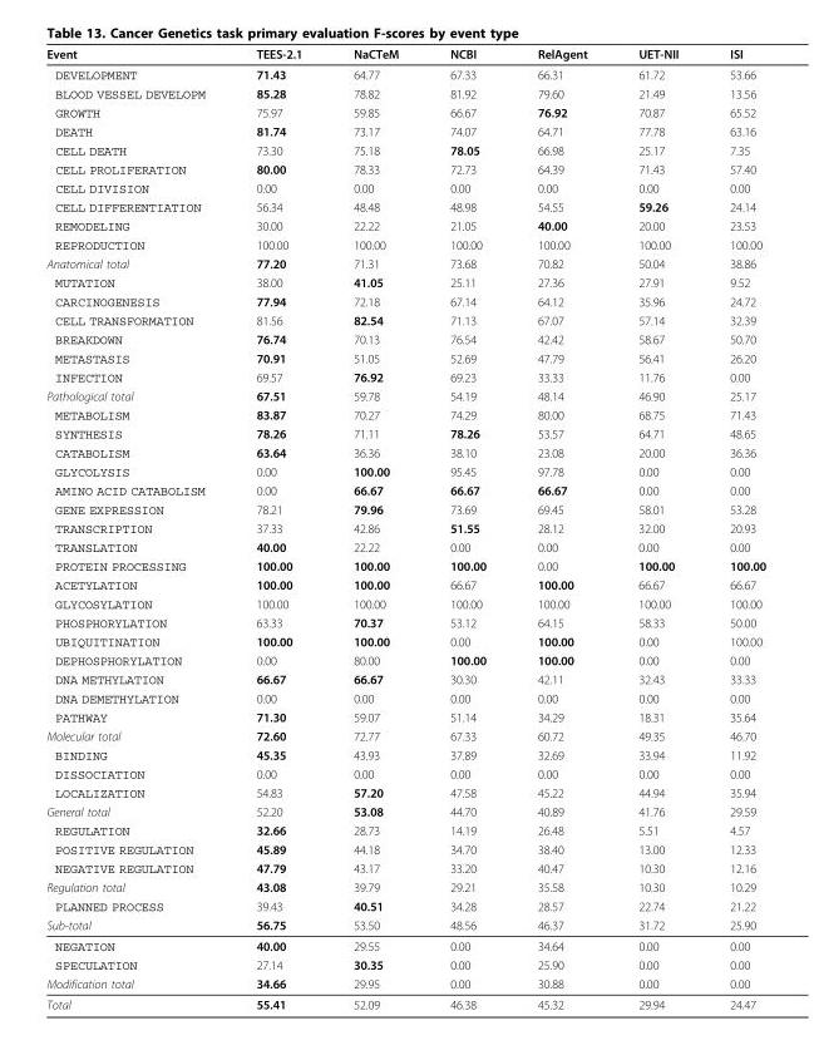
<table><thead><tr><td>Event</td><td>TEES-2.1</td><td>NaCTeM</td><td>NCBI</td><td>RelAgent</td><td>UET-NII</td><td>ISI</td></tr></thead><tbody><tr><td>DEVELOPMENT</td><td>71.43</td><td>64.77</td><td>67.33</td><td>66.31</td><td>61.72</td><td>53.66</td></tr><tr><td>BLOOD VESSEL DEVELOPM</td><td>85.28</td><td>78.82</td><td>81.92</td><td>79.60</td><td>21.49</td><td>13.56</td></tr><tr><td>GROWTH</td><td>75.97</td><td>59.85</td><td>66.67</td><td>76.92</td><td>70.87</td><td>65.52</td></tr><tr><td>DEATH</td><td>81.74</td><td>73.17</td><td>74.07</td><td>64.71</td><td>77.78</td><td>63.16</td></tr><tr><td>CELL DEATH</td><td>73.30</td><td>75.18</td><td>78.05</td><td>66.98</td><td>25.17</td><td>7.35</td></tr><tr><td>CELL PROLIFERATION</td><td>80.00</td><td>78.33</td><td>72.73</td><td>64.39</td><td>71.43</td><td>57.40</td></tr><tr><td>CELL DIVISION</td><td>0.00</td><td>0.00</td><td>0.00</td><td>0.00</td><td>0.00</td><td>0.00</td></tr><tr><td>CELL DIFFERENTIATION</td><td>56.34</td><td>48.48</td><td>48.98</td><td>54.55</td><td>59.26</td><td>24.14</td></tr><tr><td>REMODELING</td><td>30.00</td><td>22.22</td><td>21.05</td><td>40.00</td><td>20.00</td><td>23.53</td></tr><tr><td>REPRODUCTION</td><td>100.00</td><td>100.00</td><td>100.00</td><td>100.00</td><td>100.00</td><td>100.00</td></tr><tr><td>Anatomical total</td><td>77.20</td><td>71.31</td><td>73.68</td><td>70.82</td><td>50.04</td><td>38.86</td></tr><tr><td>MUTATION</td><td>38.00</td><td>41.05</td><td>25.11</td><td>27.36</td><td>27.91</td><td>9.52</td></tr><tr><td>CARCINOGENESIS</td><td>77.94</td><td>72.18</td><td>67.14</td><td>64.12</td><td>35.96</td><td>24.72</td></tr><tr><td>CELL TRANSFORMATION</td><td>81.56</td><td>82.54</td><td>71.13</td><td>67.07</td><td>57.14</td><td>32.39</td></tr><tr><td>BREAKDOWN</td><td>76.74</td><td>70.13</td><td>76.54</td><td>42.42</td><td>58.67</td><td>50.70</td></tr><tr><td>METASTASIS</td><td>70.91</td><td>51.05</td><td>52.69</td><td>47.79</td><td>56.41</td><td>26.20</td></tr><tr><td>INFECTION</td><td>69.57</td><td>76.92</td><td>69.23</td><td>33.33</td><td>11.76</td><td>0.00</td></tr><tr><td>Pathological total</td><td>67.51</td><td>59.78</td><td>54.19</td><td>48.14</td><td>46.90</td><td>25.17</td></tr><tr><td>METABOLISM</td><td>83.87</td><td>70.27</td><td>74.29</td><td>80.00</td><td>68.75</td><td>71.43</td></tr><tr><td>SYNTHESIS</td><td>78.26</td><td>71.11</td><td>78.26</td><td>53.57</td><td>64.71</td><td>48.65</td></tr><tr><td>CATABOLISM</td><td>63.64</td><td>36.36</td><td>38.10</td><td>23.08</td><td>20.00</td><td>36.36</td></tr><tr><td>GLYCOLYSIS</td><td>0.00</td><td>100.00</td><td>95.45</td><td>97.78</td><td>0.00</td><td>0.00</td></tr><tr><td>AMINO ACID CATABOLISM</td><td>0.00</td><td>66.67</td><td>66.67</td><td>66.67</td><td>0.00</td><td>0.00</td></tr><tr><td>GENE EXPRESSION</td><td>78.21</td><td>79.96</td><td>73.69</td><td>69.45</td><td>58.01</td><td>53.28</td></tr><tr><td>TRANSCRIPTION</td><td>37.33</td><td>42.86</td><td>51.55</td><td>28.12</td><td>32.00</td><td>20.93</td></tr><tr><td>TRANSLATION</td><td>40.00</td><td>22.22</td><td>0.00</td><td>0.00</td><td>0.00</td><td>0.00</td></tr><tr><td>PROTEIN PROCESSING</td><td>100.00</td><td>100.00</td><td>100.00</td><td>0.00</td><td>100.00</td><td>100.00</td></tr><tr><td>ACETYLATION</td><td>100.00</td><td>100.00</td><td>66.67</td><td>100.00</td><td>66.67</td><td>66.67</td></tr><tr><td>GLYCOSYLATION</td><td>100.00</td><td>100.00</td><td>100.00</td><td>100.00</td><td>100.00</td><td>100.00</td></tr><tr><td>PHOSPHORYLATION</td><td>63.33</td><td>70.37</td><td>53.12</td><td>64.15</td><td>58.33</td><td>50.00</td></tr><tr><td>UBIQUITINATION</td><td>100.00</td><td>100.00</td><td>0.00</td><td>100.00</td><td>0.00</td><td>100.00</td></tr><tr><td>DEPHOSPHORYLATION</td><td>0.00</td><td>80.00</td><td>100.00</td><td>100.00</td><td>0.00</td><td>0.00</td></tr><tr><td>DNA METHYLATION</td><td>66.67</td><td>66.67</td><td>30.30</td><td>42.11</td><td>32.43</td><td>33.33</td></tr><tr><td>DNA DEMETHYLATION</td><td>0.00</td><td>0.00</td><td>0.00</td><td>0.00</td><td>0.00</td><td>0.00</td></tr><tr><td>PATHWAY</td><td>71.30</td><td>59.07</td><td>51.14</td><td>34.29</td><td>18.31</td><td>35.64</td></tr><tr><td>Molecular total</td><td>72.60</td><td>72.77</td><td>67.33</td><td>60.72</td><td>49.35</td><td>46.70</td></tr><tr><td>BINDING</td><td>45.35</td><td>43.93</td><td>37.89</td><td>32.69</td><td>33.94</td><td>11.92</td></tr><tr><td>DISSOCIATION</td><td>0.00</td><td>0.00</td><td>0.00</td><td>0.00</td><td>0.00</td><td>0.00</td></tr><tr><td>LOCALIZATION</td><td>54.83</td><td>57.20</td><td>47.58</td><td>45.22</td><td>44.94</td><td>35.94</td></tr><tr><td>General total</td><td>52.20</td><td>53.08</td><td>44.70</td><td>40.89</td><td>41.76</td><td>29.59</td></tr><tr><td>REGULATION</td><td>32.66</td><td>28.73</td><td>14.19</td><td>26.48</td><td>5.51</td><td>4.57</td></tr><tr><td>POSITIVE REGULATION</td><td>45.89</td><td>44.18</td><td>34.70</td><td>38.40</td><td>13.00</td><td>12.33</td></tr><tr><td>NEGATIVE REGULATION</td><td>47.79</td><td>43.17</td><td>33.20</td><td>40.47</td><td>10.30</td><td>12.16</td></tr><tr><td>Regulation total</td><td>43.08</td><td>39.79</td><td>29.21</td><td>35.58</td><td>10.30</td><td>10.29</td></tr><tr><td>PLANNED PROCESS</td><td>39.43</td><td>40.51</td><td>34.28</td><td>28.57</td><td>22.74</td><td>21.22</td></tr><tr><td>Sub-total</td><td>56.75</td><td>53.50</td><td>48.56</td><td>46.37</td><td>31.72</td><td>25.90</td></tr><tr><td>NEGATION</td><td>40.00</td><td>29.55</td><td>0.00</td><td>34.64</td><td>0.00</td><td>0.00</td></tr><tr><td>SPECULATION</td><td>27.14</td><td>30.35</td><td>0.00</td><td>25.90</td><td>0.00</td><td>0.00</td></tr><tr><td>Modification total</td><td>34.66</td><td>29.95</td><td>0.00</td><td>30.88</td><td>0.00</td><td>0.00</td></tr><tr><td>Total</td><td>55.41</td><td>52.09</td><td>46.38</td><td>45.32</td><td>29.94</td><td>24.47</td></tr></tbody></table>